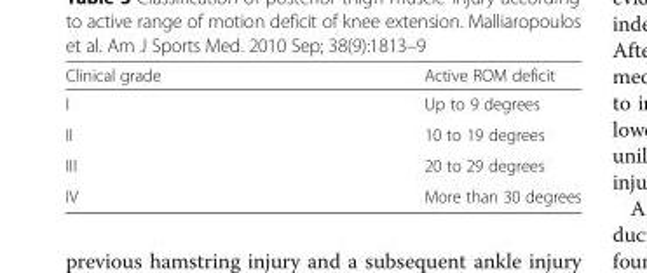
<table><thead><tr><td>Clinical grade</td><td>Active ROM deficit</td></tr></thead><tbody><tr><td>I</td><td>Up to 9 degrees</td></tr><tr><td>II</td><td>10 to 19 degrees</td></tr><tr><td>III</td><td>20 to 29 degrees</td></tr><tr><td>IV</td><td>More than 30 degrees</td></tr></tbody></table>